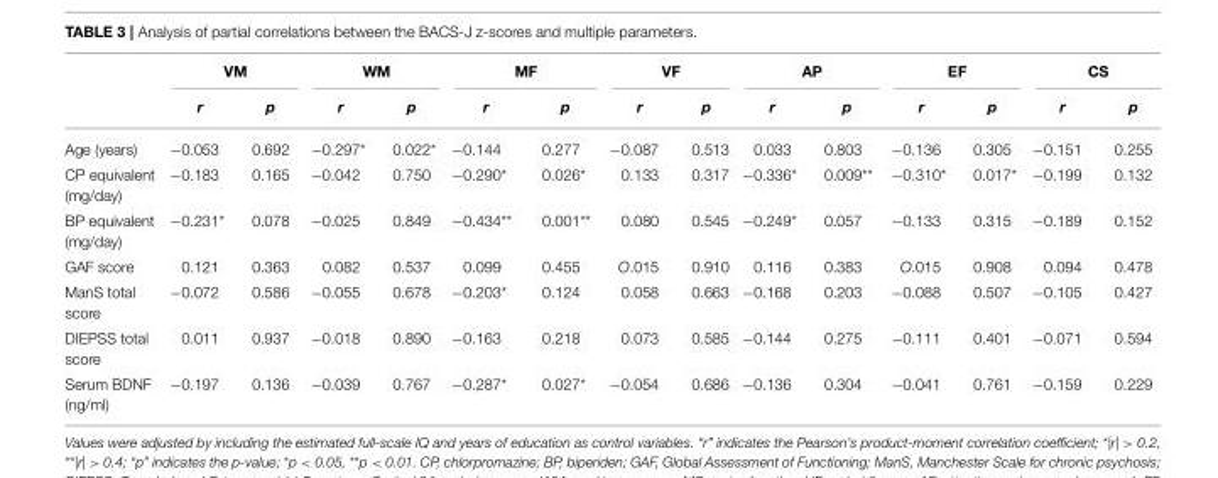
<table><thead><tr><td rowspan="2"></td><td colspan="2">VM</td><td colspan="2">WM</td><td colspan="2">MF</td><td colspan="2">VF</td><td colspan="2">AP</td><td colspan="2">EF</td><td colspan="2">CS</td></tr><tr><td>r</td><td>p</td><td>r</td><td>p</td><td>r</td><td>p</td><td>r</td><td>p</td><td>r</td><td>p</td><td>r</td><td>p</td><td>r</td><td>p</td></tr></thead><tbody><tr><td>Age (years)</td><td>−0.053</td><td>0.692</td><td>−0.297*</td><td>0.022*</td><td>−0.144</td><td>0.277</td><td>−0.087</td><td>0.513</td><td>0.033</td><td>0.803</td><td>−0.136</td><td>0.305</td><td>−0.151</td><td>0.255</td></tr><tr><td>CP equivalent (mg/day)</td><td>−0.183</td><td>0.165</td><td>−0.042</td><td>0.750</td><td>−0.290*</td><td>0.026*</td><td>0.133</td><td>0.317</td><td>−0.336*</td><td>0.009**</td><td>−0.310*</td><td>0.017*</td><td>−0.199</td><td>0.132</td></tr><tr><td>BP equivalent (mg/day)</td><td>−0.231*</td><td>0.078</td><td>−0.025</td><td>0.849</td><td>−0.434**</td><td>0.001**</td><td>0.080</td><td>0.545</td><td>−0.249*</td><td>0.057</td><td>−0.133</td><td>0.315</td><td>−0.189</td><td>0.152</td></tr><tr><td>GAF score</td><td>0.121</td><td>0.363</td><td>0.082</td><td>0.537</td><td>0.099</td><td>0.455</td><td>O.015</td><td>0.910</td><td>0.116</td><td>0.383</td><td>O.015</td><td>0.908</td><td>0.094</td><td>0.478</td></tr><tr><td>ManS total score</td><td>−0.072</td><td>0.586</td><td>−0.055</td><td>0.678</td><td>−0.203*</td><td>0.124</td><td>0.058</td><td>0.663</td><td>−0.168</td><td>0.203</td><td>−0.088</td><td>0.507</td><td>−0.105</td><td>0.427</td></tr><tr><td>DIEPSS total score</td><td>0.011</td><td>0.937</td><td>−0.018</td><td>0.890</td><td>−0.163</td><td>0.218</td><td>0.073</td><td>0.585</td><td>−0.144</td><td>0.275</td><td>−0.111</td><td>0.401</td><td>−0.071</td><td>0.594</td></tr><tr><td>Serum BDNF (ng/ml)</td><td>−0.197</td><td>0.136</td><td>−0.039</td><td>0.767</td><td>−0.287*</td><td>0.027*</td><td>−0.054</td><td>0.686</td><td>−0.136</td><td>0.304</td><td>−0.041</td><td>0.761</td><td>−0.159</td><td>0.229</td></tr></tbody></table>